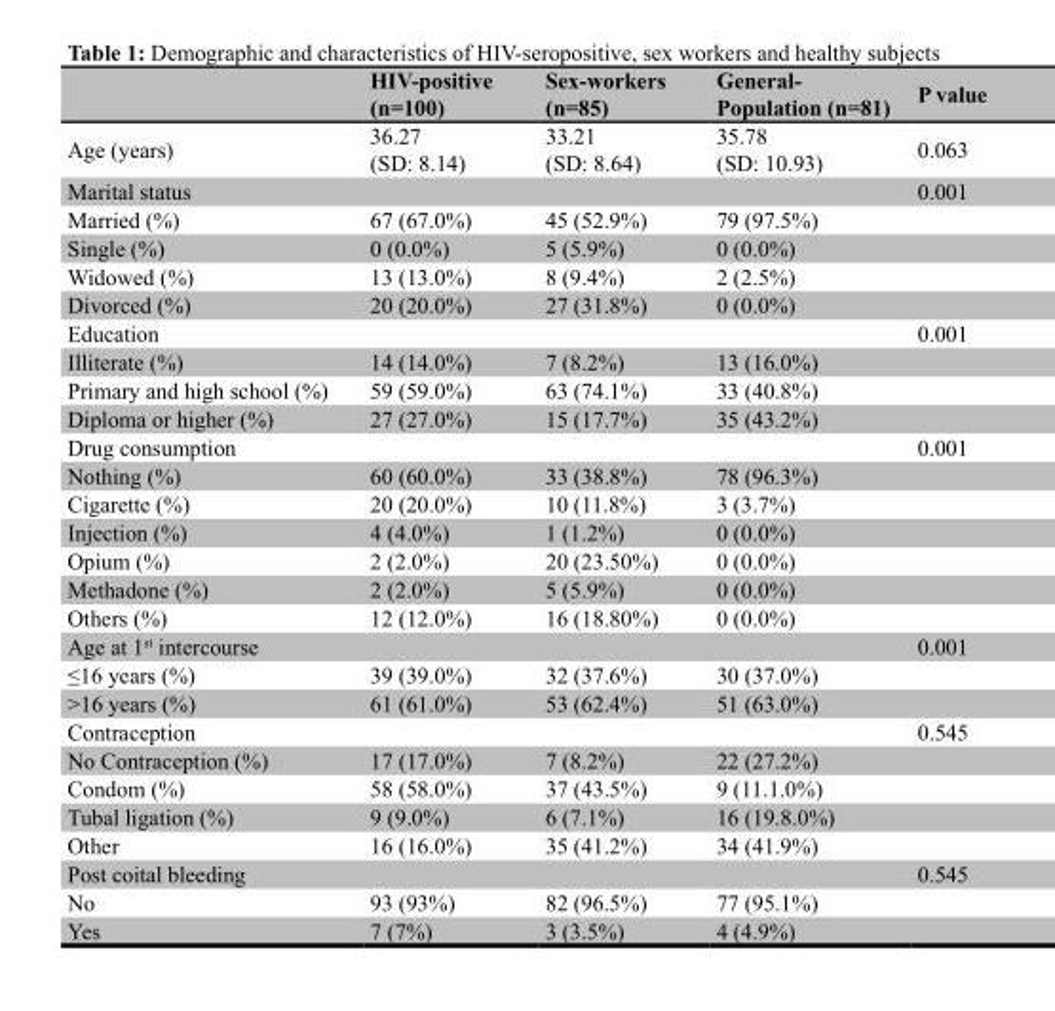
<table><thead><tr><td></td><td>HIV-positive (n=100)</td><td>Sex-workers (n=85)</td><td>General- Population (n=81)</td><td>P value</td></tr></thead><tbody><tr><td>Age (years)</td><td>36.27 (SD: 8.14)</td><td>33.21 (SD: 8.64)</td><td>35.78 (SD: 10.93)</td><td>0.063</td></tr><tr><td>Marital status</td><td></td><td></td><td></td><td>0.001</td></tr><tr><td>Married (%)</td><td>67 (67.0%)</td><td>45 (52.9%)</td><td>79 (97.5%)</td><td></td></tr><tr><td>Single (%)</td><td>0 (0.0%)</td><td>5 (5.9%)</td><td>0 (0.0%)</td><td></td></tr><tr><td>Widowed (%)</td><td>13 (13.0%)</td><td>8 (9.4%)</td><td>2 (2.5%)</td><td></td></tr><tr><td>Divorced (%)</td><td>20 (20.0%)</td><td>27 (31.8%)</td><td>0 (0.0%)</td><td></td></tr><tr><td>Education</td><td></td><td></td><td></td><td>0.001</td></tr><tr><td>Illiterate (%)</td><td>14 (14.0%)</td><td>7 (8.2%)</td><td>13 (16.0%)</td><td></td></tr><tr><td>Primary and high school (%)</td><td>59 (59.0%)</td><td>63 (74.1%)</td><td>33 (40.8%)</td><td></td></tr><tr><td>Diploma or higher (%)</td><td>27 (27.0%)</td><td>15 (17.7%)</td><td>35 (43.2%)</td><td></td></tr><tr><td>Drug consumption</td><td></td><td></td><td></td><td>0.001</td></tr><tr><td>Nothing (%)</td><td>60 (60.0%)</td><td>33 (38.8%)</td><td>78 (96.3%)</td><td></td></tr><tr><td>Cigarette (%)</td><td>20 (20.0%)</td><td>10 (11.8%)</td><td>3 (3.7%)</td><td></td></tr><tr><td>Injection (%)</td><td>4 (4.0%)</td><td>1 (1.2%)</td><td>0 (0.0%)</td><td></td></tr><tr><td>Opium (%)</td><td>2 (2.0%)</td><td>20 (23.50%)</td><td>0 (0.0%)</td><td></td></tr><tr><td>Methadone (%)</td><td>2 (2.0%)</td><td>5 (5.9%)</td><td>0 (0.0%)</td><td></td></tr><tr><td>Others (%)</td><td>12 (12.0%)</td><td>16 (18.80%)</td><td>0 (0.0%)</td><td></td></tr><tr><td>Age at 1<sup>st</sup> intercourse</td><td></td><td></td><td></td><td>0.001</td></tr><tr><td>≤16 years (%)</td><td>39 (39.0%)</td><td>32 (37.6%)</td><td>30 (37.0%)</td><td></td></tr><tr><td>&gt;16 years (%)</td><td>61 (61.0%)</td><td>53 (62.4%)</td><td>51 (63.0%)</td><td></td></tr><tr><td>Contraception</td><td></td><td></td><td></td><td>0.545</td></tr><tr><td>No Contraception (%)</td><td>17 (17.0%)</td><td>7 (8.2%)</td><td>22 (27.2%)</td><td></td></tr><tr><td>Condom (%)</td><td>58 (58.0%)</td><td>37 (43.5%)</td><td>9 (11.1.0%)</td><td></td></tr><tr><td>Tubal ligation (%)</td><td>9 (9.0%)</td><td>6 (7.1%)</td><td>16 (19.8.0%)</td><td></td></tr><tr><td>Other</td><td>16 (16.0%)</td><td>35 (41.2%)</td><td>34 (41.9%)</td><td></td></tr><tr><td>Post coital bleeding</td><td></td><td></td><td></td><td>0.545</td></tr><tr><td>No</td><td>93 (93%)</td><td>82 (96.5%)</td><td>77 (95.1%)</td><td></td></tr><tr><td>Yes</td><td>7 (7%)</td><td>3 (3.5%)</td><td>4 (4.9%)</td><td></td></tr></tbody></table>